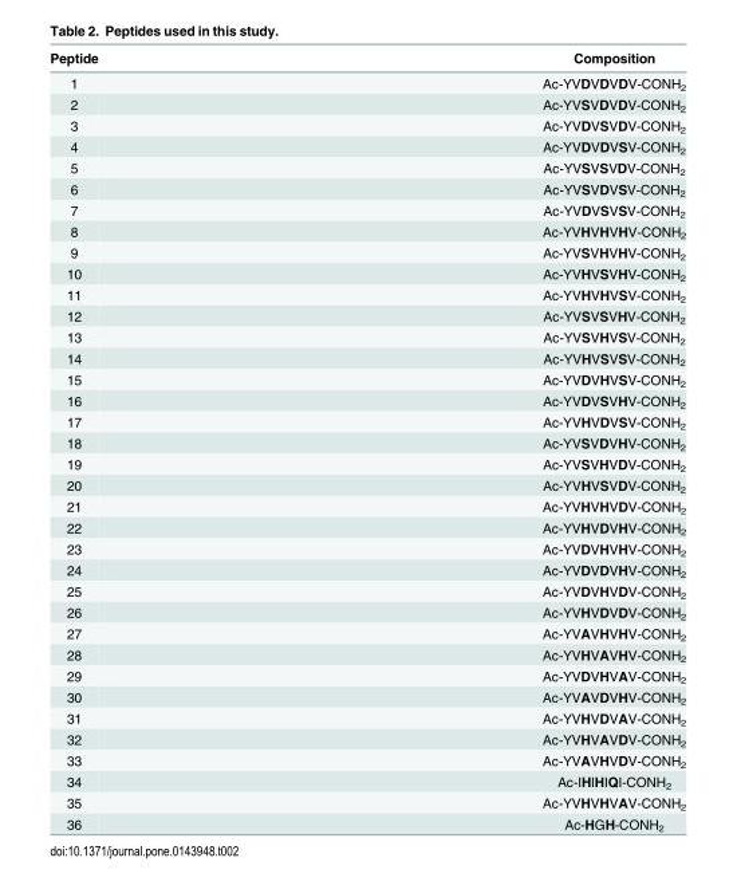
<table><thead><tr><td>Peptide</td><td>Composition</td></tr></thead><tbody><tr><td>1</td><td>Ac-YVDVDVDV-CONH<sub>2</sub></td></tr><tr><td>2</td><td>Ac-YVSVDVDV-CONH<sub>2</sub></td></tr><tr><td>3</td><td>Ac-YVDVSVDV-CONH<sub>2</sub></td></tr><tr><td>4</td><td>Ac-YVDVDVSV-CONH<sub>2</sub></td></tr><tr><td>5</td><td>Ac-YVSVSVDV-CONH<sub>2</sub></td></tr><tr><td>6</td><td>Ac-YVSVDVSV-CONH<sub>2</sub></td></tr><tr><td>7</td><td>Ac-YVDVSVSV-CONH<sub>2</sub></td></tr><tr><td>8</td><td>Ac-YVHVHVHV-CONH<sub>2</sub></td></tr><tr><td>9</td><td>Ac-YVSVHVHV-CONH<sub>2</sub></td></tr><tr><td>10</td><td>Ac-YVHVSVHV-CONH<sub>2</sub></td></tr><tr><td>11</td><td>Ac-YVHVHVSV-CONH<sub>2</sub></td></tr><tr><td>12</td><td>Ac-YVSVSVHV-CONH<sub>2</sub></td></tr><tr><td>13</td><td>Ac-YVSVHVSV-CONH<sub>2</sub></td></tr><tr><td>14</td><td>Ac-YVHVSVSV-CONH<sub>2</sub></td></tr><tr><td>15</td><td>Ac-YVDVHVSV-CONH<sub>2</sub></td></tr><tr><td>16</td><td>Ac-YVDVSVHV-CONH<sub>2</sub></td></tr><tr><td>17</td><td>Ac-YVHVDVSV-CONH<sub>2</sub></td></tr><tr><td>18</td><td>Ac-YVSVDVHV-CONH<sub>2</sub></td></tr><tr><td>19</td><td>Ac-YVSVHVDV-CONH<sub>2</sub></td></tr><tr><td>20</td><td>Ac-YVHVSVDV-CONH<sub>2</sub></td></tr><tr><td>21</td><td>Ac-YVHVHVDV-CONH<sub>2</sub></td></tr><tr><td>22</td><td>Ac-YVHVDVHV-CONH<sub>2</sub></td></tr><tr><td>23</td><td>Ac-YVDVHVHV-CONH<sub>2</sub></td></tr><tr><td>24</td><td>Ac-YVDVDVHV-CONH<sub>2</sub></td></tr><tr><td>25</td><td>Ac-YVDVHVDV-CONH<sub>2</sub></td></tr><tr><td>26</td><td>Ac-YVHVDVDV-CONH<sub>2</sub></td></tr><tr><td>27</td><td>Ac-YVAVHVHV-CONH<sub>2</sub></td></tr><tr><td>28</td><td>Ac-YVHVAVHV-CONH<sub>2</sub></td></tr><tr><td>29</td><td>Ac-YVDVHVAV-CONH<sub>2</sub></td></tr><tr><td>30</td><td>Ac-YVAVDVHV-CONH<sub>2</sub></td></tr><tr><td>31</td><td>Ac-YVHVDVAV-CONH<sub>2</sub></td></tr><tr><td>32</td><td>Ac-YVHVAVDV-CONH<sub>2</sub></td></tr><tr><td>33</td><td>Ac-YVAVHVDV-CONH<sub>2</sub></td></tr><tr><td>34</td><td>Ac-IHIHIQI-CONH<sub>2</sub></td></tr><tr><td>35</td><td>Ac-YVHVHVAV-CONH<sub>2</sub></td></tr><tr><td>36</td><td>Ac-HGH-CONH<sub>2</sub></td></tr></tbody></table>